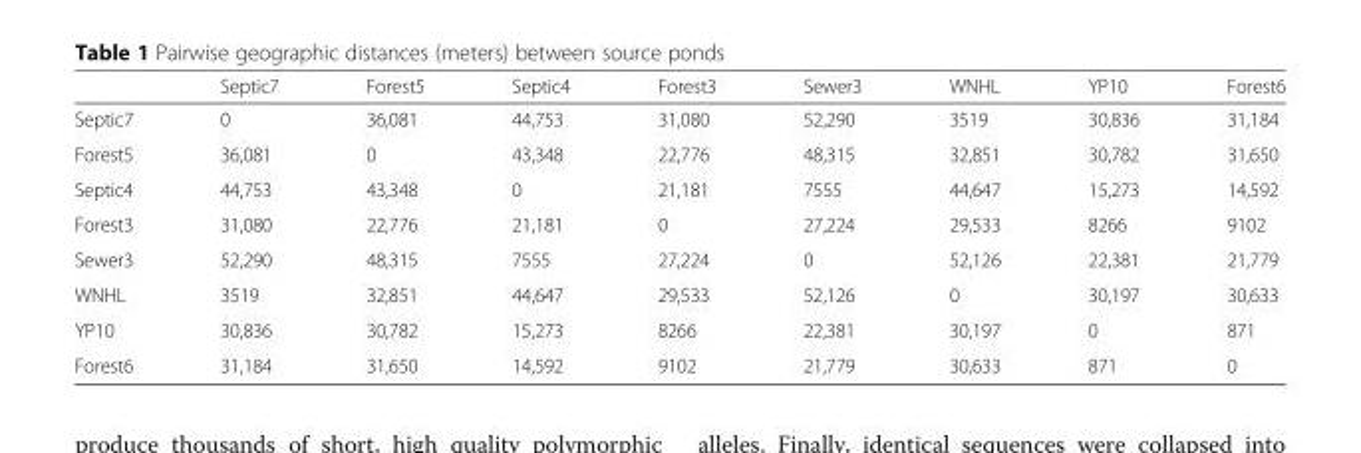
<table><thead><tr><td></td><td>Septic7</td><td>Forest5</td><td>Septic4</td><td>Forest3</td><td>Sewer3</td><td>WNHL</td><td>YP10</td><td>Forest6</td></tr></thead><tbody><tr><td>Septic7</td><td>0</td><td>36,081</td><td>44,753</td><td>31,080</td><td>52,290</td><td>3519</td><td>30,836</td><td>31,184</td></tr><tr><td>Forest5</td><td>36,081</td><td>0</td><td>43,348</td><td>22,776</td><td>48,315</td><td>32,851</td><td>30,782</td><td>31,650</td></tr><tr><td>Septic4</td><td>44,753</td><td>43,348</td><td>0</td><td>21,181</td><td>7555</td><td>44,647</td><td>15,273</td><td>14,592</td></tr><tr><td>Forest3</td><td>31,080</td><td>22,776</td><td>21,181</td><td>0</td><td>27,224</td><td>29,533</td><td>8266</td><td>9102</td></tr><tr><td>Sewer3</td><td>52,290</td><td>48,315</td><td>7555</td><td>27,224</td><td>0</td><td>52,126</td><td>22,381</td><td>21,779</td></tr><tr><td>WNHL</td><td>3519</td><td>32,851</td><td>44,647</td><td>29,533</td><td>52,126</td><td>0</td><td>30,197</td><td>30,633</td></tr><tr><td>YP10</td><td>30,836</td><td>30,782</td><td>15,273</td><td>8266</td><td>22,381</td><td>30,197</td><td>0</td><td>871</td></tr><tr><td>Forest6</td><td>31,184</td><td>31,650</td><td>14,592</td><td>9102</td><td>21,779</td><td>30,633</td><td>871</td><td>0</td></tr></tbody></table>